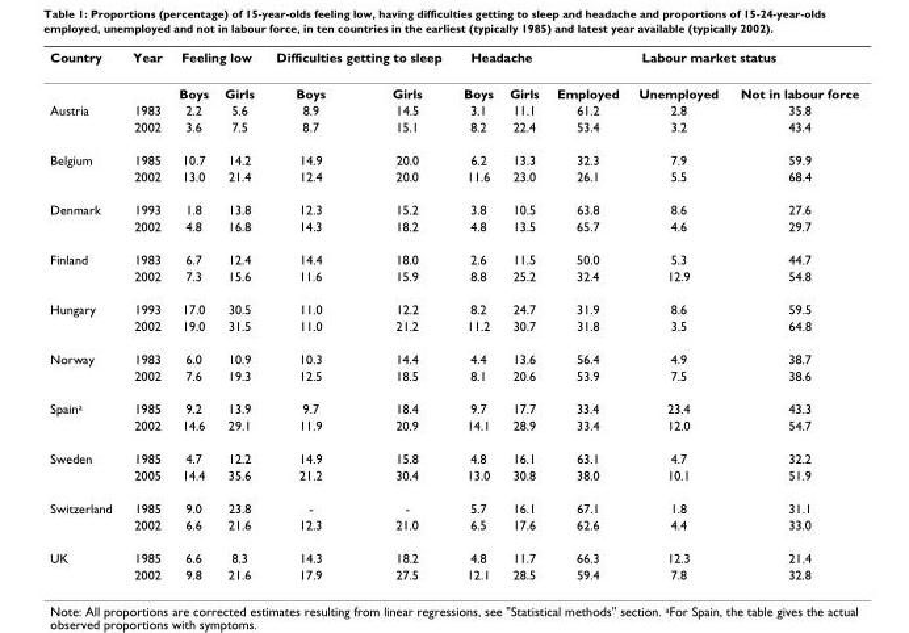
<table><thead><tr><td rowspan="2">Country</td><td rowspan="2">Year</td><td colspan="2">Feeling low</td><td colspan="2">Difficulties getting to sleep</td><td colspan="2">Headache</td><td colspan="3">Labour market status</td></tr><tr><td>Boys</td><td>Girls</td><td>Boys</td><td>Girls</td><td>Boys</td><td>Girls</td><td>Employed</td><td>Unemployed</td><td>Not in labour force</td></tr></thead><tbody><tr><td rowspan="2">Austria</td><td>1983</td><td>2.2</td><td>5.6</td><td>8.9</td><td>14.5</td><td>3.1</td><td>11.1</td><td>61.2</td><td>2.8</td><td>35.8</td></tr><tr><td>2002</td><td>3.6</td><td>7.5</td><td>8.7</td><td>15.1</td><td>8.2</td><td>22.4</td><td>53.4</td><td>3.2</td><td>43.4</td></tr><tr><td rowspan="2">Belgium</td><td>1985</td><td>10.7</td><td>14.2</td><td>14.9</td><td>20.0</td><td>6.2</td><td>13.3</td><td>32.3</td><td>7.9</td><td>59.9</td></tr><tr><td>2002</td><td>13.0</td><td>21.4</td><td>12.4</td><td>20.0</td><td>11.6</td><td>23.0</td><td>26.1</td><td>5.5</td><td>68.4</td></tr><tr><td rowspan="2">Denmark</td><td>1993</td><td>1.8</td><td>13.8</td><td>12.3</td><td>15.2</td><td>3.8</td><td>10.5</td><td>63.8</td><td>8.6</td><td>27.6</td></tr><tr><td>2002</td><td>4.8</td><td>16.8</td><td>14.3</td><td>18.2</td><td>4.8</td><td>13.5</td><td>65.7</td><td>4.6</td><td>29.7</td></tr><tr><td rowspan="2">Finland</td><td>1983</td><td>6.7</td><td>12.4</td><td>14.4</td><td>18.0</td><td>2.6</td><td>11.5</td><td>50.0</td><td>5.3</td><td>44.7</td></tr><tr><td>2002</td><td>7.3</td><td>15.6</td><td>11.6</td><td>15.9</td><td>8.8</td><td>25.2</td><td>32.4</td><td>12.9</td><td>54.8</td></tr><tr><td rowspan="2">Hungary</td><td>1993</td><td>17.0</td><td>30.5</td><td>11.0</td><td>12.2</td><td>8.2</td><td>24.7</td><td>31.9</td><td>8.6</td><td>59.5</td></tr><tr><td>2002</td><td>19.0</td><td>31.5</td><td>11.0</td><td>21.2</td><td>11.2</td><td>30.7</td><td>31.8</td><td>3.5</td><td>64.8</td></tr><tr><td rowspan="2">Norway</td><td>1983</td><td>6.0</td><td>10.9</td><td>10.3</td><td>14.4</td><td>4.4</td><td>13.6</td><td>56.4</td><td>4.9</td><td>38.7</td></tr><tr><td>2002</td><td>7.6</td><td>19.3</td><td>12.5</td><td>18.5</td><td>8.1</td><td>20.6</td><td>53.9</td><td>7.5</td><td>38.6</td></tr><tr><td rowspan="2">Spain<sup>a</sup></td><td>1985</td><td>9.2</td><td>13.9</td><td>9.7</td><td>18.4</td><td>9.7</td><td>17.7</td><td>33.4</td><td>23.4</td><td>43.3</td></tr><tr><td>2002</td><td>14.6</td><td>29.1</td><td>11.9</td><td>20.9</td><td>14.1</td><td>28.9</td><td>33.4</td><td>12.0</td><td>54.7</td></tr><tr><td rowspan="2">Sweden</td><td>1985</td><td>4.7</td><td>12.2</td><td>14.9</td><td>15.8</td><td>4.8</td><td>16.1</td><td>63.1</td><td>4.7</td><td>32.2</td></tr><tr><td>2005</td><td>14.4</td><td>35.6</td><td>21.2</td><td>30.4</td><td>13.0</td><td>30.8</td><td>38.0</td><td>10.1</td><td>51.9</td></tr><tr><td rowspan="2">Switzerland</td><td>1985</td><td>9.0</td><td>23.8</td><td>-</td><td>-</td><td>5.7</td><td>16.1</td><td>67.1</td><td>1.8</td><td>31.1</td></tr><tr><td>2002</td><td>6.6</td><td>21.6</td><td>12.3</td><td>21.0</td><td>6.5</td><td>17.6</td><td>62.6</td><td>4.4</td><td>33.0</td></tr><tr><td rowspan="2">UK</td><td>1985</td><td>6.6</td><td>8.3</td><td>14.3</td><td>18.2</td><td>4.8</td><td>11.7</td><td>66.3</td><td>12.3</td><td>21.4</td></tr><tr><td>2002</td><td>9.8</td><td>21.6</td><td>17.9</td><td>27.5</td><td>12.1</td><td>28.5</td><td>59.4</td><td>7.8</td><td>32.8</td></tr></tbody></table>